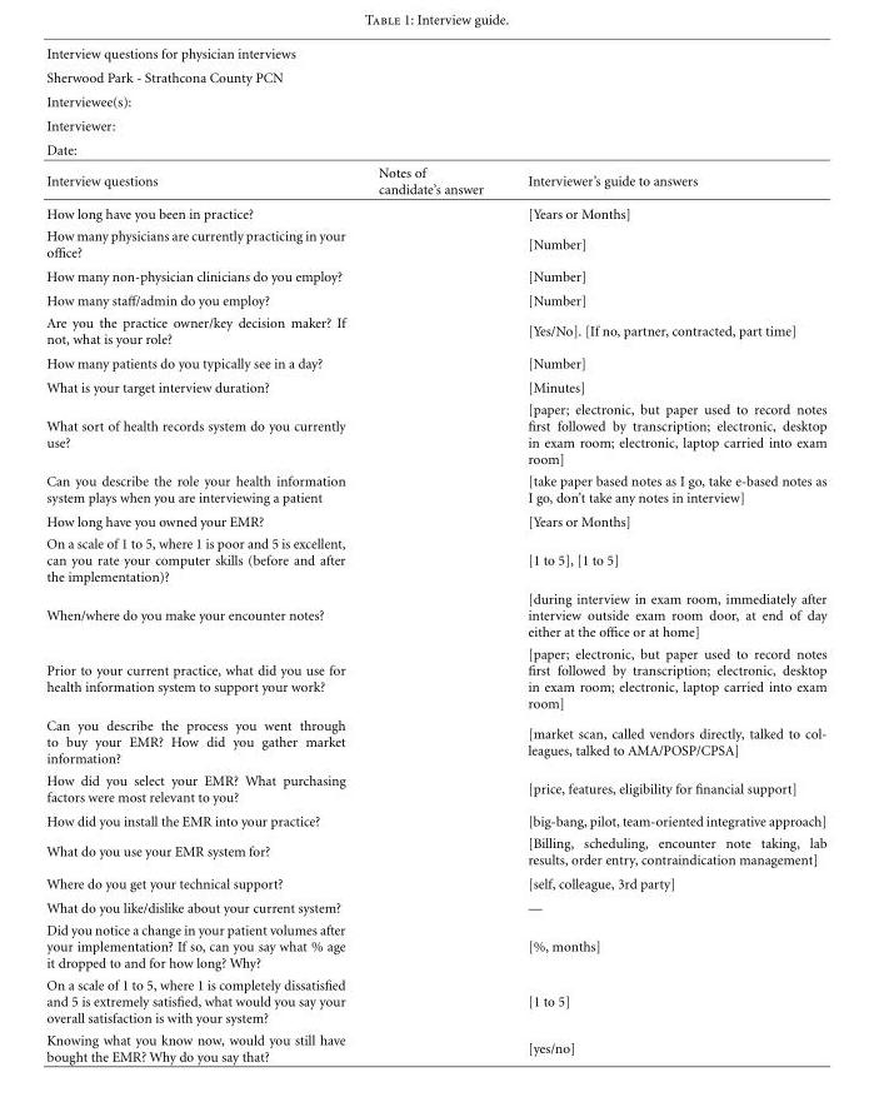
<table><thead><tr><td rowspan="6">Interview questions for physician interviews Sherwood Park - Strathcona County PCN Interviewee(s): Interviewer: Date: Interview questions</td><td rowspan="6">Notes of candidate’s answer</td><td rowspan="6">Interviewer’s guide to answers</td></tr><tr></tr><tr></tr><tr></tr><tr></tr><tr></tr></thead><tbody><tr><td>How long have you been in practice?</td><td></td><td>[Years or Months]</td></tr><tr><td>How many physicians are currently practicing in your office?</td><td></td><td>[Number]</td></tr><tr><td>How many non-physician clinicians do you employ?</td><td></td><td>[Number]</td></tr><tr><td>How many staff/admin do you employ?</td><td></td><td>[Number]</td></tr><tr><td>Are you the practice owner/key decision maker? If not, what is your role?</td><td></td><td>[Yes/No]. [If no, partner, contracted, part time]</td></tr><tr><td>How many patients do you typically see in a day?</td><td></td><td>[Number]</td></tr><tr><td>What is your target interview duration?</td><td></td><td>[Minutes]</td></tr><tr><td>What sort of health records system do you currently use?</td><td></td><td>[paper; electronic, but paper used to record notes first followed by transcription; electronic, desktop in exam room; electronic, laptop carried into exam room]</td></tr><tr><td>Can you describe the role your health information system plays when you are interviewing a patient</td><td></td><td>[take paper based notes as I go, take e-based notes as I go, don’t take any notes in interview]</td></tr><tr><td>How long have you owned your EMR?</td><td></td><td>[Years or Months]</td></tr><tr><td>On a scale of 1 to 5, where 1 is poor and 5 is excellent, can you rate your computer skills (before and after the implementation)?</td><td></td><td>[1 to 5], [1 to 5]</td></tr><tr><td>When/where do you make your encounter notes?</td><td></td><td>[during interview in exam room, immediately after interview outside exam room door, at end of day either at the office or at home]</td></tr><tr><td>Prior to your current practice, what did you use for health information system to support your work?</td><td></td><td>[paper; electronic, but paper used to record notes first followed by transcription; electronic, desktop in exam room; electronic, laptop carried into exam room]</td></tr><tr><td>Can you describe the process you went through to buy your EMR? How did you gather market information?</td><td></td><td>[market scan, called vendors directly, talked to col- leagues, talked to AMA/POSP/CPSA]</td></tr><tr><td>How did you select your EMR? What purchasing factors were most relevant to you?</td><td></td><td>[price, features, eligibility for financial support]</td></tr><tr><td>How did you install the EMR into your practice?</td><td></td><td>[big-bang, pilot, team-oriented integrative approach]</td></tr><tr><td>What do you use your EMR system for?</td><td></td><td>[Billing, scheduling, encounter note taking, lab results, order entry, contraindication management]</td></tr><tr><td>Where do you get your technical support?</td><td></td><td>[self, colleague, 3rd party]</td></tr><tr><td>What do you like/dislike about your current system?</td><td></td><td>—</td></tr><tr><td>Did you notice a change in your patient volumes after your implementation? If so, can you say what % age it dropped to and for how long? Why?</td><td></td><td>[%, months]</td></tr><tr><td>On a scale of 1 to 5, where 1 is completely dissatisfied and 5 is extremely satisfied, what would you say your overall satisfaction is with your system?</td><td></td><td>[1 to 5]</td></tr><tr><td>Knowing what you know now, would you still have bought the EMR? Why do you say that?</td><td></td><td>[yes/no]</td></tr></tbody></table>